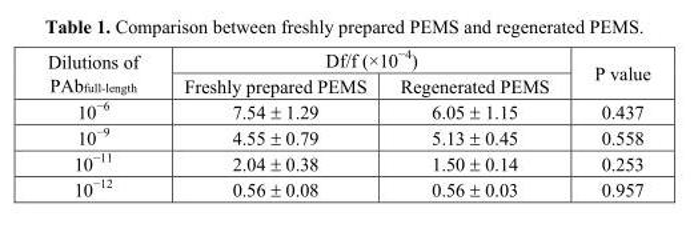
<table><thead><tr><td rowspan="2">Dilutions of PAb<sub>full-length</sub></td><td colspan="2">Df/f (×10<sup>−4</sup>)</td><td rowspan="2">P value</td></tr><tr><td>Freshly prepared PEMS</td><td>Regenerated PEMS</td></tr></thead><tbody><tr><td>10<sup>−6</sup></td><td>7.54 ± 1.29</td><td>6.05 ± 1.15</td><td>0.437</td></tr><tr><td>10<sup>−9</sup></td><td>4.55 ± 0.79</td><td>5.13 ± 0.45</td><td>0.558</td></tr><tr><td>10<sup>−11</sup></td><td>2.04 ± 0.38</td><td>1.50 ± 0.14</td><td>0.253</td></tr><tr><td>10<sup>−12</sup></td><td>0.56 ± 0.08</td><td>0.56 ± 0.03</td><td>0.957</td></tr></tbody></table>